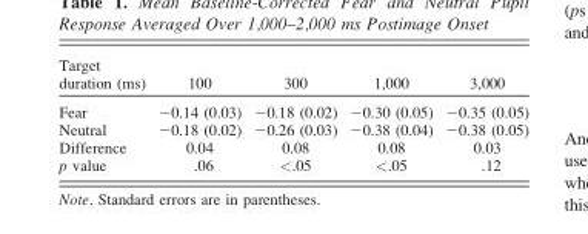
<table><thead><tr><td>Target duration (ms)</td><td>100</td><td>300</td><td>1,000</td><td>3,000</td></tr></thead><tbody><tr><td>Fear</td><td>−0.14 (0.03)</td><td>−0.18 (0.02)</td><td>−0.30 (0.05)</td><td>−0.35 (0.05)</td></tr><tr><td>Neutral</td><td>−0.18 (0.02)</td><td>−0.26 (0.03)</td><td>−0.38 (0.04)</td><td>−0.38 (0.05)</td></tr><tr><td>Difference</td><td>0.04</td><td>0.08</td><td>0.08</td><td>0.03</td></tr><tr><td>p value</td><td>.06</td><td>&lt;.05</td><td>&lt;.05</td><td>.12</td></tr></tbody></table>